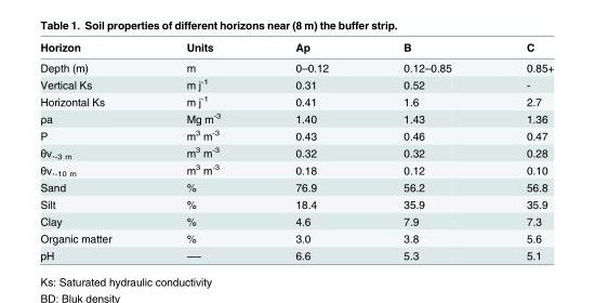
<table><thead><tr><td>Horizon</td><td>Units</td><td>Ap</td><td>B</td><td>C</td></tr></thead><tbody><tr><td>Depth (m)</td><td>m</td><td>0–0.12</td><td>0.12–0.85</td><td>0.85+</td></tr><tr><td>Vertical Ks</td><td>m j<sup>-1</sup></td><td>0.31</td><td>0.52</td><td>-</td></tr><tr><td>Horizontal Ks</td><td>m j<sup>-1</sup></td><td>0.41</td><td>1.6</td><td>2.7</td></tr><tr><td>ρa</td><td>Mg m<sup>-3</sup></td><td>1.40</td><td>1.43</td><td>1.36</td></tr><tr><td>P</td><td>m<sup>3</sup> m<sup>-3</sup></td><td>0.43</td><td>0.46</td><td>0.47</td></tr><tr><td>θv.<sub>-3 m</sub></td><td>m<sup>3</sup> m<sup>-3</sup></td><td>0.32</td><td>0.32</td><td>0.28</td></tr><tr><td>θv.<sub>-10 m</sub></td><td>m<sup>3</sup> m<sup>-3</sup></td><td>0.18</td><td>0.12</td><td>0.10</td></tr><tr><td>Sand</td><td>%</td><td>76.9</td><td>56.2</td><td>56.8</td></tr><tr><td>Silt</td><td>%</td><td>18.4</td><td>35.9</td><td>35.9</td></tr><tr><td>Clay</td><td>%</td><td>4.6</td><td>7.9</td><td>7.3</td></tr><tr><td>Organic matter</td><td>%</td><td>3.0</td><td>3.8</td><td>5.6</td></tr><tr><td>pH</td><td>—-</td><td>6.6</td><td>5.3</td><td>5.1</td></tr></tbody></table>